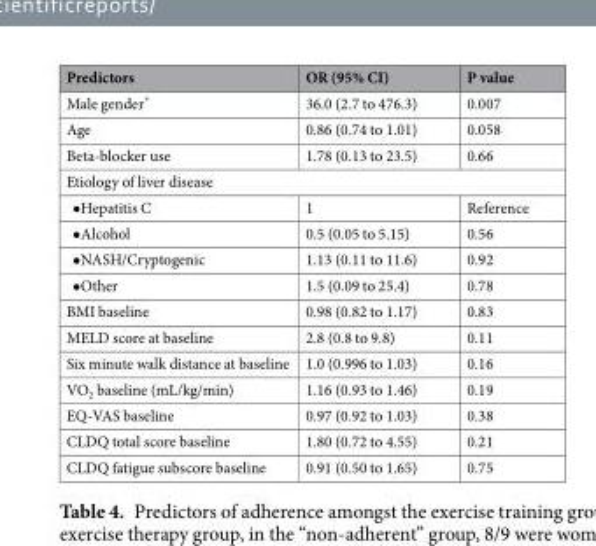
<table><thead><tr><td>Predictors</td><td>OR (95% CI)</td><td>P value</td></tr></thead><tbody><tr><td>Male gender*</td><td>36.0 (2.7 to 476.3)</td><td>0.007</td></tr><tr><td>Age</td><td>0.86 (0.74 to 1.01)</td><td>0.058</td></tr><tr><td>Beta-blocker use</td><td>1.78 (0.13 to 23.5)</td><td>0.66</td></tr><tr><td colspan="3">Etiology of liver disease</td></tr><tr><td>•Hepatitis C</td><td>1</td><td>Reference</td></tr><tr><td>•Alcohol</td><td>0.5 (0.05 to 5.15)</td><td>0.56</td></tr><tr><td>•NASH/Cryptogenic</td><td>1.13 (0.11 to 11.6)</td><td>0.92</td></tr><tr><td>•Other</td><td>1.5 (0.09 to 25.4)</td><td>0.78</td></tr><tr><td>BMI baseline</td><td>0.98 (0.82 to 1.17)</td><td>0.83</td></tr><tr><td>MELD score at baseline</td><td>2.8 (0.8 to 9.8)</td><td>0.11</td></tr><tr><td>Six minute walk distance at baseline</td><td>1.0 (0.996 to 1.03)</td><td>0.16</td></tr><tr><td>VO<sub>2</sub> baseline (mL/kg/min)</td><td>1.16 (0.93 to 1.46)</td><td>0.19</td></tr><tr><td>EQ-VAS baseline</td><td>0.97 (0.92 to 1.03)</td><td>0.38</td></tr><tr><td>CLDQ total score baseline</td><td>1.80 (0.72 to 4.55)</td><td>0.21</td></tr><tr><td>CLDQ fatigue subscore baseline</td><td>0.91 (0.50 to 1.65)</td><td>0.75</td></tr></tbody></table>